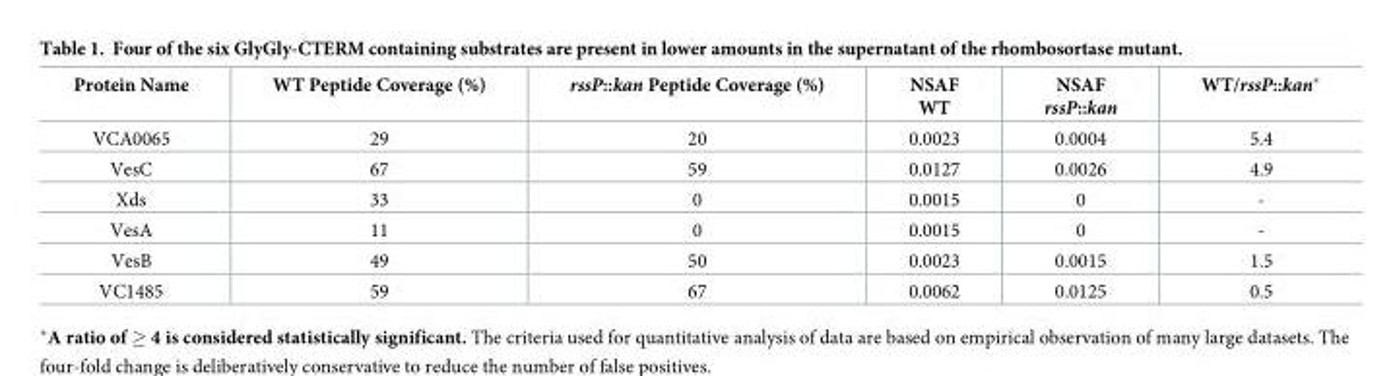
<table><thead><tr><td>Protein Name</td><td>WT Peptide Coverage (%)</td><td>rssP::kan Peptide Coverage (%)</td><td>NSAF WT</td><td>NSAF rssP::kan</td><td>WT/rssP::kan*</td></tr></thead><tbody><tr><td>VCA0065</td><td>29</td><td>20</td><td>0.0023</td><td>0.0004</td><td>5.4</td></tr><tr><td>VesC</td><td>67</td><td>59</td><td>0.0127</td><td>0.0026</td><td>4.9</td></tr><tr><td>Xds</td><td>33</td><td>0</td><td>0.0015</td><td>0</td><td>-</td></tr><tr><td>VesA</td><td>11</td><td>0</td><td>0.0015</td><td>0</td><td>-</td></tr><tr><td>VesB</td><td>49</td><td>50</td><td>0.0023</td><td>0.0015</td><td>1.5</td></tr><tr><td>VC1485</td><td>59</td><td>67</td><td>0.0062</td><td>0.0125</td><td>0.5</td></tr></tbody></table>